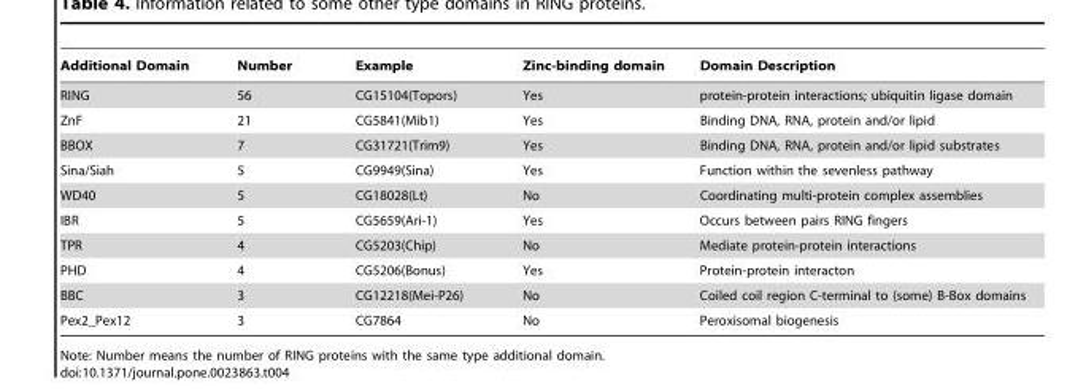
<table><thead><tr><td>Additional Domain</td><td>Number</td><td>Example</td><td>Zinc-binding domain</td><td>Domain Description</td></tr></thead><tbody><tr><td>RING</td><td>56</td><td>CG15104(Topors)</td><td>Yes</td><td>protein-protein interactions; ubiquitin ligase domain</td></tr><tr><td>ZnF</td><td>21</td><td>CG5841(Mib1)</td><td>Yes</td><td>Binding DNA, RNA, protein and/or lipid</td></tr><tr><td>BBOX</td><td>7</td><td>CG31721(Trim9)</td><td>Yes</td><td>Binding DNA, RNA, protein and/or lipid substrates</td></tr><tr><td>Sina/Siah</td><td>5</td><td>CG9949(Sina)</td><td>Yes</td><td>Function within the sevenless pathway</td></tr><tr><td>WD40</td><td>5</td><td>CG18028(Lt)</td><td>No</td><td>Coordinating multi-protein complex assemblies</td></tr><tr><td>IBR</td><td>5</td><td>CG5659(Ari-1)</td><td>Yes</td><td>Occurs between pairs RING fingers</td></tr><tr><td>TPR</td><td>4</td><td>CG5203(Chip)</td><td>No</td><td>Mediate protein-protein interactions</td></tr><tr><td>PHD</td><td>4</td><td>CG5206(Bonus)</td><td>Yes</td><td>Protein-protein interacton</td></tr><tr><td>BBC</td><td>3</td><td>CG12218(Mei-P26)</td><td>No</td><td>Coiled coil region C-terminal to (some) B-Box domains</td></tr><tr><td>Pex2_Pex12</td><td>3</td><td>CG7864</td><td>No</td><td>Peroxisomal biogenesis</td></tr></tbody></table>